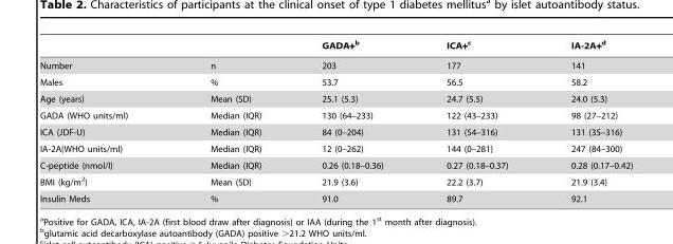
<table><thead><tr><td></td><td></td><td>GADA+<sup>b</sup></td><td>ICA+<sup>c</sup></td><td>IA-2A+<sup>d</sup></td></tr></thead><tbody><tr><td>Number</td><td>n</td><td>203</td><td>177</td><td>141</td></tr><tr><td>Males</td><td>%</td><td>53.7</td><td>56.5</td><td>58.2</td></tr><tr><td>Age (years)</td><td>Mean (SD)</td><td>25.1 (5.3)</td><td>24.7 (5.5)</td><td>24.0 (5.3)</td></tr><tr><td>GADA (WHO units/ml)</td><td>Median (IQR)</td><td>130 (64–233)</td><td>122 (43–233)</td><td>98 (27–212)</td></tr><tr><td>ICA (JDF-U)</td><td>Median (IQR)</td><td>84 (0–204)</td><td>131 (54–316)</td><td>131 (35–316)</td></tr><tr><td>IA-2A(WHO units/ml)</td><td>Median (IQR)</td><td>12 (0–262)</td><td>144 (0–281)</td><td>247 (84–300)</td></tr><tr><td>C-peptide (nmol/l)</td><td>Median (IQR)</td><td>0.26 (0.18–0.36)</td><td>0.27 (0.18–0.37)</td><td>0.28 (0.17–0.42)</td></tr><tr><td>BMI (kg/m<sup>2</sup>)</td><td>Mean (SD)</td><td>21.9 (3.6)</td><td>22.2 (3.7)</td><td>21.9 (3.4)</td></tr><tr><td>Insulin Meds</td><td>%</td><td>91.0</td><td>89.7</td><td>92.1</td></tr></tbody></table>